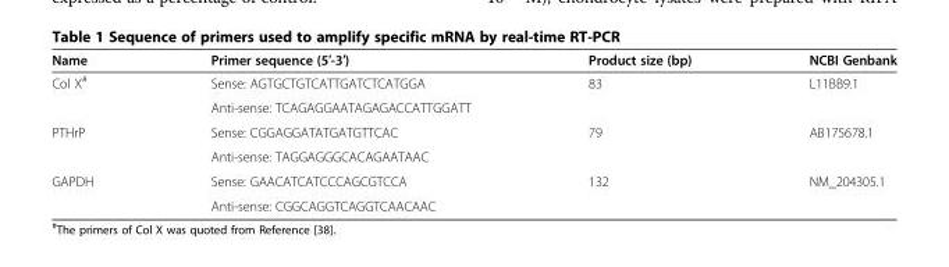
<table><thead><tr><td>Name</td><td>Primer sequence (5′-3′)</td><td>Product size (bp)</td><td>NCBI Genbank</td></tr></thead><tbody><tr><td rowspan="2">Col X<sup>#</sup></td><td>Sense: AGTGCTGTCATTGATCTCATGGA</td><td rowspan="2">83</td><td rowspan="2">L11BB9.1</td></tr><tr><td>Anti-sense: TCAGAGGAATAGAGACCATTGGATT</td></tr><tr><td rowspan="2">PTHrP</td><td>Sense: CGGAGGATATGATGTTCAC</td><td rowspan="2">79</td><td rowspan="2">AB175678.1</td></tr><tr><td>Anti-sense: TAGGAGGGCACAGAATAAC</td></tr><tr><td rowspan="2">GAPDH</td><td>Sense: GAACATCATCCCAGCGTCCA</td><td rowspan="2">132</td><td rowspan="2">NM_204305.1</td></tr><tr><td>Anti-sense: CGGCAGGTCAGGTCAACAAC</td></tr></tbody></table>